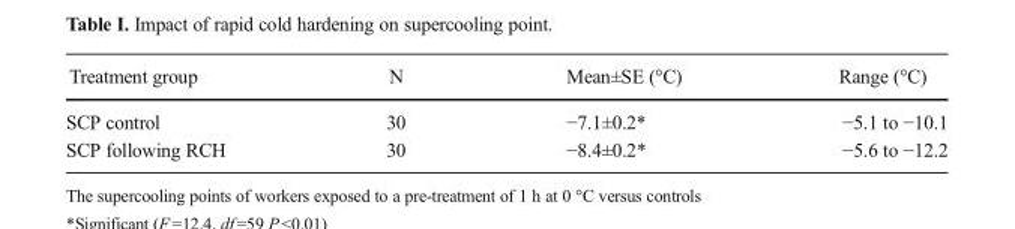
<table><thead><tr><td>Treatment group</td><td>N</td><td>Mean±SE (°C)</td><td>Range (°C)</td></tr></thead><tbody><tr><td>SCP control</td><td>30</td><td>−7.1±0.2*</td><td>−5.1 to −10.1</td></tr><tr><td>SCP following RCH</td><td>30</td><td>−8.4±0.2*</td><td>−5.6 to −12.2</td></tr></tbody></table>